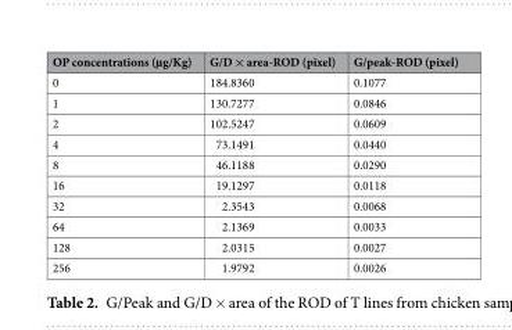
<table><thead><tr><td>OP concentrations (µg/Kg)</td><td>G/D × area-ROD (pixel)</td><td>G/peak-ROD (pixel)</td></tr></thead><tbody><tr><td>0</td><td>184.8360</td><td>0.1077</td></tr><tr><td>1</td><td>130.7277</td><td>0.0846</td></tr><tr><td>2</td><td>102.5247</td><td>0.0609</td></tr><tr><td>4</td><td>73.1491</td><td>0.0440</td></tr><tr><td>8</td><td>46.1188</td><td>0.0290</td></tr><tr><td>16</td><td>19.1297</td><td>0.0118</td></tr><tr><td>32</td><td>2.3543</td><td>0.0068</td></tr><tr><td>64</td><td>2.1369</td><td>0.0033</td></tr><tr><td>128</td><td>2.0315</td><td>0.0027</td></tr><tr><td>256</td><td>1.9792</td><td>0.0026</td></tr></tbody></table>